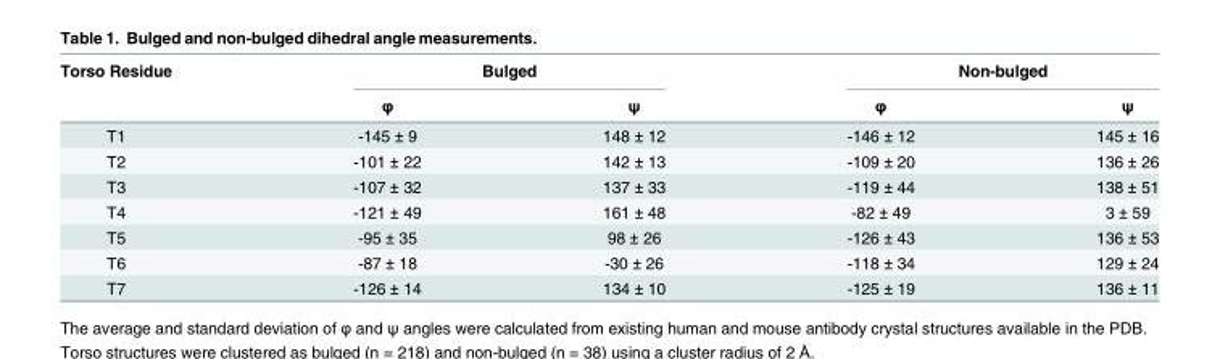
<table><thead><tr><td rowspan="2">Torso Residue</td><td colspan="2">Bulged</td><td colspan="2">Non-bulged</td></tr><tr><td>φ</td><td>ψ</td><td>φ</td><td>ψ</td></tr></thead><tbody><tr><td>T1</td><td>-145 ± 9</td><td>148 ± 12</td><td>-146 ± 12</td><td>145 ± 16</td></tr><tr><td>T2</td><td>-101 ± 22</td><td>142 ± 13</td><td>-109 ± 20</td><td>136 ± 26</td></tr><tr><td>T3</td><td>-107 ± 32</td><td>137 ± 33</td><td>-119 ± 44</td><td>138 ± 51</td></tr><tr><td>T4</td><td>-121 ± 49</td><td>161 ± 48</td><td>-82 ± 49</td><td>3 ± 59</td></tr><tr><td>T5</td><td>-95 ± 35</td><td>98 ± 26</td><td>-126 ± 43</td><td>136 ± 53</td></tr><tr><td>T6</td><td>-87 ± 18</td><td>-30 ± 26</td><td>-118 ± 34</td><td>129 ± 24</td></tr><tr><td>T7</td><td>-126 ± 14</td><td>134 ± 10</td><td>-125 ± 19</td><td>136 ± 11</td></tr></tbody></table>